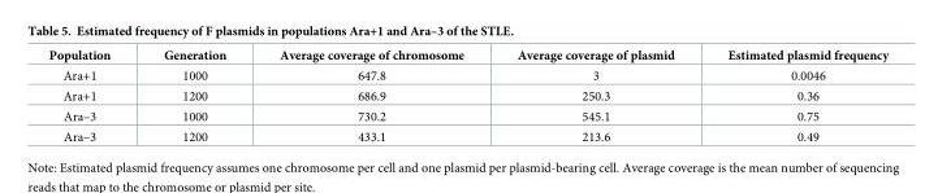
<table><thead><tr><td>Population</td><td>Generation</td><td>Average coverage of chromosome</td><td>Average coverage of plasmid</td><td>Estimated plasmid frequency</td></tr></thead><tbody><tr><td>Ara+1</td><td>1000</td><td>647.8</td><td>3</td><td>0.0046</td></tr><tr><td>Ara+1</td><td>1200</td><td>686.9</td><td>250.3</td><td>0.36</td></tr><tr><td>Ara–3</td><td>1000</td><td>730.2</td><td>545.1</td><td>0.75</td></tr><tr><td>Ara–3</td><td>1200</td><td>433.1</td><td>213.6</td><td>0.49</td></tr></tbody></table>